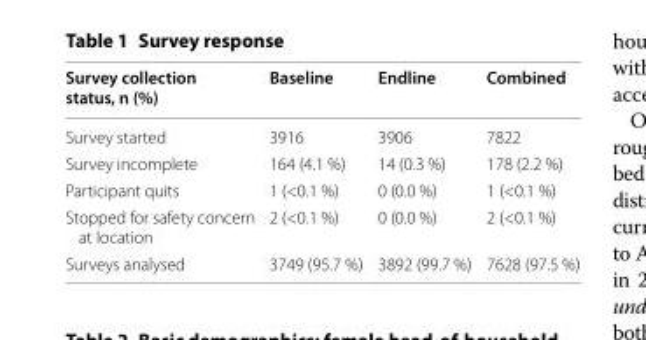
<table><thead><tr><td>Survey collection status, n (%)</td><td>Baseline</td><td>Endline</td><td>Combined</td></tr></thead><tbody><tr><td>Survey started</td><td>3916</td><td>3906</td><td>7822</td></tr><tr><td>Survey incomplete</td><td>164 (4.1 %)</td><td>14 (0.3 %)</td><td>178 (2.2 %)</td></tr><tr><td>Participant quits</td><td>1 (&lt;0.1 %)</td><td>0 (0.0 %)</td><td>1 (&lt;0.1 %)</td></tr><tr><td>Stopped for safety concern at location</td><td>2 (&lt;0.1 %)</td><td>0 (0.0 %)</td><td>2 (&lt;0.1 %)</td></tr><tr><td>Surveys analysed</td><td>3749 (95.7 %)</td><td>3892 (99.7 %)</td><td>7628 (97.5 %)</td></tr></tbody></table>